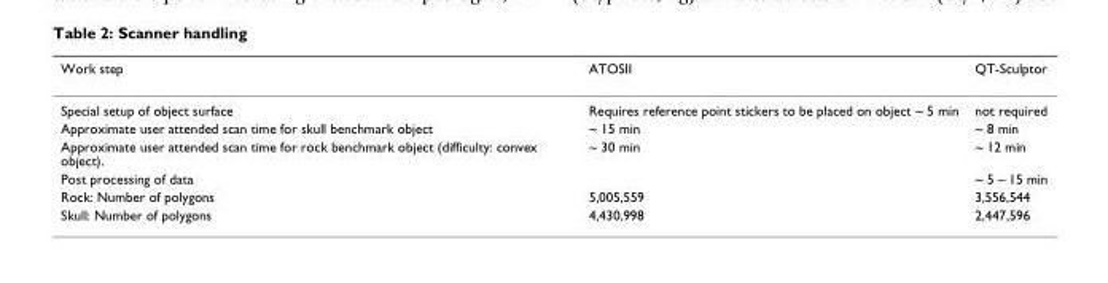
<table><thead><tr><td>Work step</td><td>ATOSII</td><td>QT-Sculptor</td></tr></thead><tbody><tr><td>Special setup of object surface</td><td>Requires reference point stickers to be placed on object ~ 5 min</td><td>not required</td></tr><tr><td>Approximate user attended scan time for skull benchmark object</td><td>~ 15 min</td><td>~ 8 min</td></tr><tr><td>Approximate user attended scan time for rock benchmark object (difficulty: convex object).</td><td>~ 30 min</td><td>~ 12 min</td></tr><tr><td>Post processing of data</td><td></td><td>~ 5 – 15 min</td></tr><tr><td>Rock: Number of polygons</td><td>5,005,559</td><td>3,556,544</td></tr><tr><td>Skull: Number of polygons</td><td>4,430,998</td><td>2,447,596</td></tr></tbody></table>